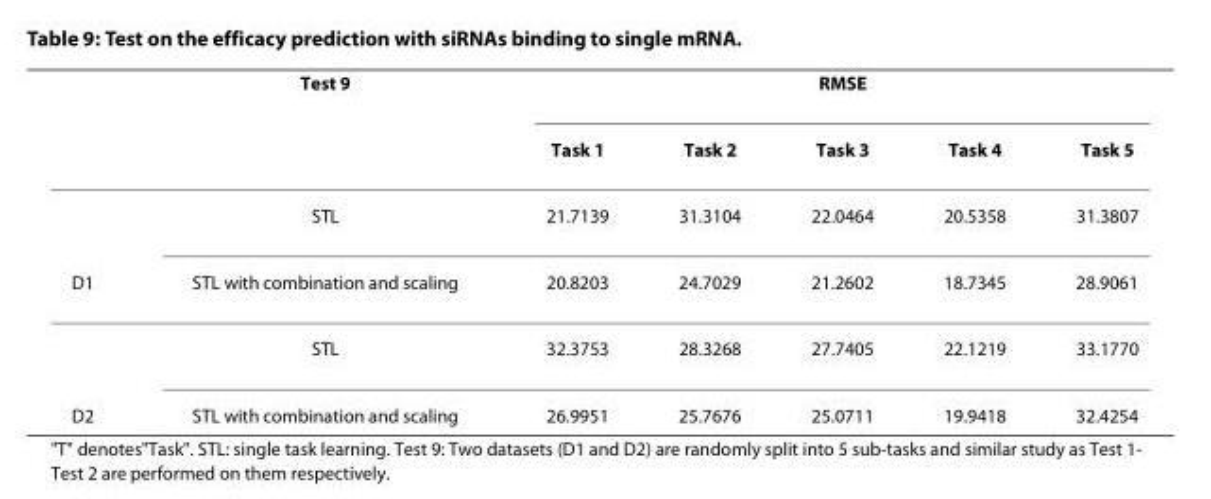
<table><thead><tr><td rowspan="2"></td><td rowspan="2">Test 9</td><td colspan="5">RMSE</td></tr><tr><td>Task 1</td><td>Task 2</td><td>Task 3</td><td>Task 4</td><td>Task 5</td></tr></thead><tbody><tr><td></td><td>STL</td><td>21.7139</td><td>31.3104</td><td>22.0464</td><td>20.5358</td><td>31.3807</td></tr><tr><td rowspan="2">D1</td><td>STL with combination and scaling</td><td>20.8203</td><td>24.7029</td><td>21.2602</td><td>18.7345</td><td>28.9061</td></tr><tr><td>STL</td><td>32.3753</td><td>28.3268</td><td>27.7405</td><td>22.1219</td><td>33.1770</td></tr><tr><td>D2</td><td>STL with combination and scaling</td><td>26.9951</td><td>25.7676</td><td>25.0711</td><td>19.9418</td><td>32.4254</td></tr></tbody></table>